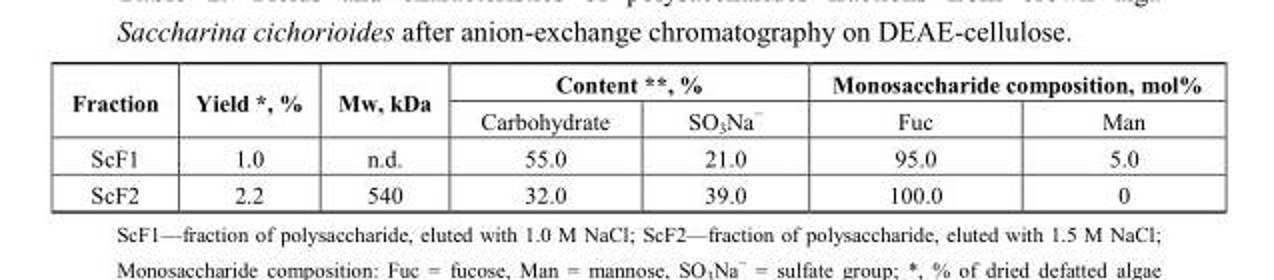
<table><thead><tr><td rowspan="2">Fraction</td><td rowspan="2">Yield *, %</td><td rowspan="2">Mw, kDa</td><td colspan="2">Content **, %</td><td colspan="2">Monosaccharide composition, mol%</td></tr><tr><td>Carbohydrate</td><td>SO<sub>3</sub>Na<sup>−</sup></td><td>Fuc</td><td>Man</td></tr></thead><tbody><tr><td>ScF1</td><td>1.0</td><td>n.d.</td><td>55.0</td><td>21.0</td><td>95.0</td><td>5.0</td></tr><tr><td>ScF2</td><td>2.2</td><td>540</td><td>32.0</td><td>39.0</td><td>100.0</td><td>0</td></tr></tbody></table>